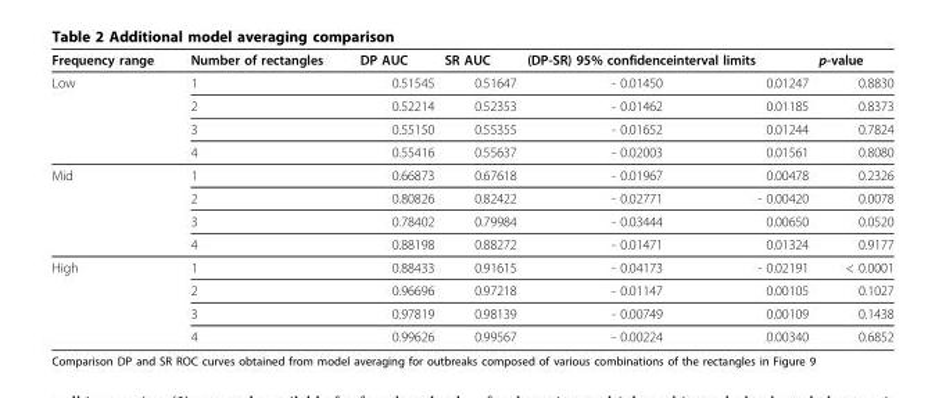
<table><thead><tr><td rowspan="2">Frequency range Low</td><td rowspan="2">Number of rectangles 1</td><td rowspan="2">DP AUC 0.51545</td><td rowspan="2">SR AUC 0.51647</td><td colspan="2">(DP-SR) 95% confidenceinterval limits</td><td rowspan="2">p-value 0.8830</td></tr><tr><td>- 0.01450</td><td>0.01247</td></tr></thead><tbody><tr><td></td><td>2</td><td>0.52214</td><td>0.52353</td><td>- 0.01462</td><td>0.01185</td><td>0.8373</td></tr><tr><td></td><td>3</td><td>0.55150</td><td>0.55355</td><td>- 0.01652</td><td>0.01244</td><td>0.7824</td></tr><tr><td></td><td>4</td><td>0.55416</td><td>0.55637</td><td>- 0.02003</td><td>0.01561</td><td>0.8080</td></tr><tr><td rowspan="4">Mid</td><td>1</td><td>0.66873</td><td>0.67618</td><td>- 0.01967</td><td>0.00478</td><td>0.2326</td></tr><tr><td>2</td><td>0.80826</td><td>0.82422</td><td>- 0.02771</td><td>- 0.00420</td><td>0.0078</td></tr><tr><td>3</td><td>0.78402</td><td>0.79984</td><td>- 0.03444</td><td>0.00650</td><td>0.0520</td></tr><tr><td>4</td><td>0.88198</td><td>0.88272</td><td>- 0.01471</td><td>0.01324</td><td>0.9177</td></tr><tr><td rowspan="4">High</td><td>1</td><td>0.88433</td><td>0.91615</td><td>- 0.04173</td><td>- 0.02191</td><td>&lt; 0.0001</td></tr><tr><td>2</td><td>0.96696</td><td>0.97218</td><td>- 0.01147</td><td>0.00105</td><td>0.1027</td></tr><tr><td>3</td><td>0.97819</td><td>0.98139</td><td>- 0.00749</td><td>0.00109</td><td>0.1438</td></tr><tr><td>4</td><td>0.99626</td><td>0.99567</td><td>- 0.00224</td><td>0.00340</td><td>0.6852</td></tr></tbody></table>